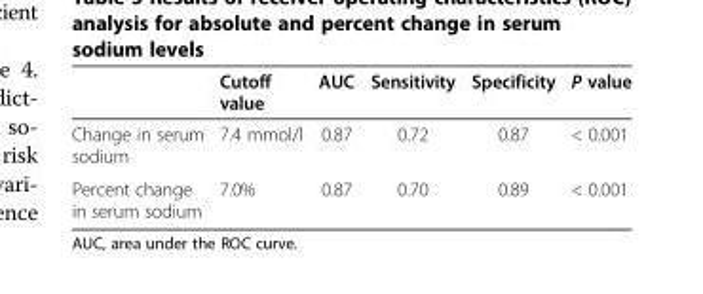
<table><thead><tr><td></td><td>Cutoff value</td><td>AUC</td><td>Sensitivity</td><td>Specificity</td><td>P value</td></tr></thead><tbody><tr><td>Change in serum sodium</td><td>7.4 mmol/l</td><td>0.87</td><td>0.72</td><td>0.87</td><td>&lt; 0.001</td></tr><tr><td>Percent change in serum sodium</td><td>7.0%</td><td>0.87</td><td>0.70</td><td>0.89</td><td>&lt; 0.001</td></tr></tbody></table>